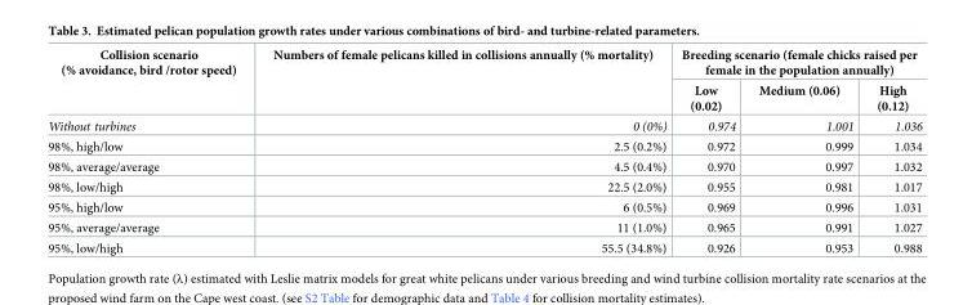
<table><thead><tr><td rowspan="2">Collision scenario (% avoidance, bird /rotor speed)</td><td rowspan="2">Numbers of female pelicans killed in collisions annually (% mortality)</td><td colspan="3">Breeding scenario (female chicks raised per female in the population annually)</td></tr><tr><td>Low (0.02)</td><td>Medium (0.06)</td><td>High (0.12)</td></tr></thead><tbody><tr><td>Without turbines</td><td>0 (0%)</td><td>0.974</td><td>1.001</td><td>1.036</td></tr><tr><td>98%, high/low</td><td>2.5 (0.2%)</td><td>0.972</td><td>0.999</td><td>1.034</td></tr><tr><td>98%, average/average</td><td>4.5 (0.4%)</td><td>0.970</td><td>0.997</td><td>1.032</td></tr><tr><td>98%, low/high</td><td>22.5 (2.0%)</td><td>0.955</td><td>0.981</td><td>1.017</td></tr><tr><td>95%, high/low</td><td>6 (0.5%)</td><td>0.969</td><td>0.996</td><td>1.031</td></tr><tr><td>95%, average/average</td><td>11 (1.0%)</td><td>0.965</td><td>0.991</td><td>1.027</td></tr><tr><td>95%, low/high</td><td>55.5 (34.8%)</td><td>0.926</td><td>0.953</td><td>0.988</td></tr></tbody></table>